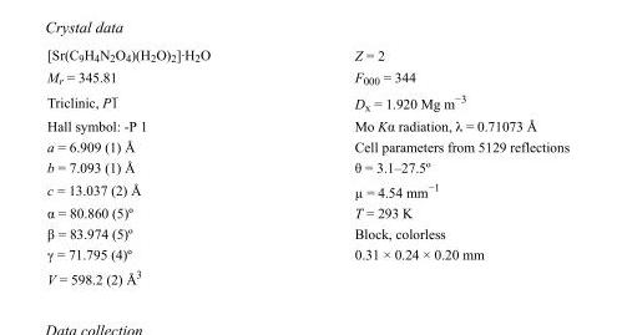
<table><tbody><tr><td>[Sr(C<sub>9</sub>H<sub>4</sub>N<sub>2</sub>O<sub>4</sub>)(H<sub>2</sub>O)<sub>2</sub>]·H<sub>2</sub>O</td><td>Z = 2</td></tr><tr><td>M<sub>r</sub> = 345.81</td><td>F000 = 344</td></tr><tr><td>Triclinic, P1</td><td>D<sub>x</sub> = 1.920 Mg m<sup>−3</sup></td></tr><tr><td>Hall symbol: -P 1</td><td>Mo Kα radiation, λ = 0.71073 Å</td></tr><tr><td>a = 6.909 (1) Å</td><td>Cell parameters from 5129 reflections</td></tr><tr><td>b = 7.093 (1) Å</td><td>θ = 3.1–27.5º</td></tr><tr><td>c = 13.037 (2) Å</td><td>µ = 4.54 mm<sup>−1</sup></td></tr><tr><td>α = 80.860 (5)º</td><td>T = 293 K</td></tr><tr><td>β = 83.974 (5)º</td><td>Block, colorless</td></tr><tr><td>γ = 71.795 (4)º</td><td>0.31 × 0.24 × 0.20 mm</td></tr><tr><td>V = 598.2 (2) Å<sup>3</sup></td><td></td></tr></tbody></table>